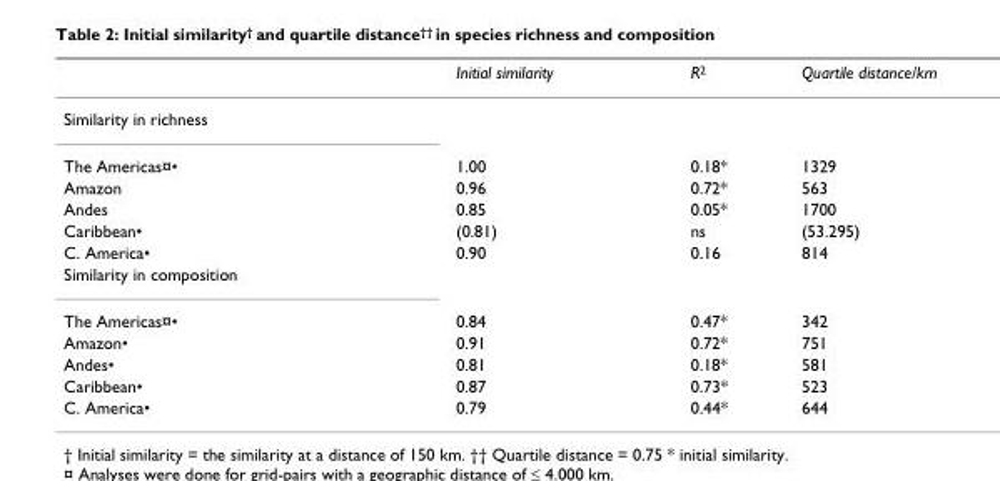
<table><thead><tr><td></td><td>Initial similarity</td><td>R<sup>2</sup></td><td>Quartile distance/km</td></tr></thead><tbody><tr><td colspan="4">Similarity in richness</td></tr><tr><td>The Americas¤•</td><td>1.00</td><td>0.18*</td><td>1329</td></tr><tr><td>Amazon</td><td>0.96</td><td>0.72*</td><td>563</td></tr><tr><td>Andes</td><td>0.85</td><td>0.05*</td><td>1700</td></tr><tr><td>Caribbean•</td><td>(0.81)</td><td>ns</td><td>(53.295)</td></tr><tr><td>C. America•</td><td>0.90</td><td>0.16</td><td>814</td></tr><tr><td colspan="4">Similarity in composition</td></tr><tr><td>The Americas¤•</td><td>0.84</td><td>0.47*</td><td>342</td></tr><tr><td>Amazon•</td><td>0.91</td><td>0.72*</td><td>751</td></tr><tr><td>Andes•</td><td>0.81</td><td>0.18*</td><td>581</td></tr><tr><td>Caribbean•</td><td>0.87</td><td>0.73*</td><td>523</td></tr><tr><td>C. America•</td><td>0.79</td><td>0.44*</td><td>644</td></tr></tbody></table>